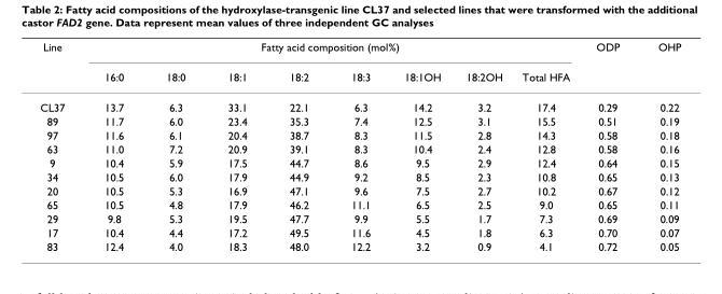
<table><thead><tr><td rowspan="2">Line</td><td colspan="8">Fatty acid composition (mol%)</td><td rowspan="2">ODP</td><td rowspan="2">OHP</td></tr><tr><td>16:0</td><td>18:0</td><td>18:1</td><td>18:2</td><td>18:3</td><td>18:1OH</td><td>18:2OH</td><td>Total HFA</td></tr></thead><tbody><tr><td>CL37</td><td>13.7</td><td>6.3</td><td>33.1</td><td>22.1</td><td>6.3</td><td>14.2</td><td>3.2</td><td>17.4</td><td>0.29</td><td>0.22</td></tr><tr><td>89</td><td>11.7</td><td>6.0</td><td>23.4</td><td>35.3</td><td>7.4</td><td>12.5</td><td>3.1</td><td>15.5</td><td>0.51</td><td>0.19</td></tr><tr><td>97</td><td>11.6</td><td>6.1</td><td>20.4</td><td>38.7</td><td>8.3</td><td>11.5</td><td>2.8</td><td>14.3</td><td>0.58</td><td>0.18</td></tr><tr><td>63</td><td>11.0</td><td>7.2</td><td>20.9</td><td>39.1</td><td>8.3</td><td>10.4</td><td>2.4</td><td>12.8</td><td>0.58</td><td>0.16</td></tr><tr><td>9</td><td>10.4</td><td>5.9</td><td>17.5</td><td>44.7</td><td>8.6</td><td>9.5</td><td>2.9</td><td>12.4</td><td>0.64</td><td>0.15</td></tr><tr><td>34</td><td>10.5</td><td>6.0</td><td>17.9</td><td>44.9</td><td>9.2</td><td>8.5</td><td>2.3</td><td>10.8</td><td>0.65</td><td>0.13</td></tr><tr><td>20</td><td>10.5</td><td>5.3</td><td>16.9</td><td>47.1</td><td>9.6</td><td>7.5</td><td>2.7</td><td>10.2</td><td>0.67</td><td>0.12</td></tr><tr><td>65</td><td>10.5</td><td>4.8</td><td>17.9</td><td>46.2</td><td>11.1</td><td>6.5</td><td>2.5</td><td>9.0</td><td>0.65</td><td>0.11</td></tr><tr><td>29</td><td>9.8</td><td>5.3</td><td>19.5</td><td>47.7</td><td>9.9</td><td>5.5</td><td>1.7</td><td>7.3</td><td>0.69</td><td>0.09</td></tr><tr><td>17</td><td>10.4</td><td>4.4</td><td>17.2</td><td>49.5</td><td>11.6</td><td>4.5</td><td>1.8</td><td>6.3</td><td>0.70</td><td>0.07</td></tr><tr><td>83</td><td>12.4</td><td>4.0</td><td>18.3</td><td>48.0</td><td>12.2</td><td>3.2</td><td>0.9</td><td>4.1</td><td>0.72</td><td>0.05</td></tr></tbody></table>